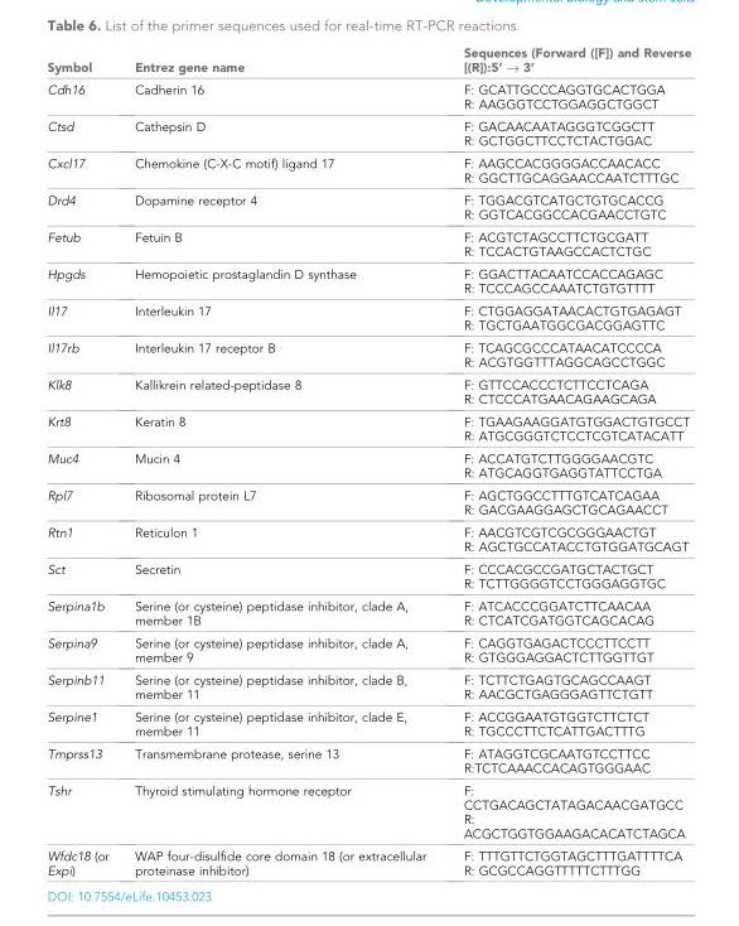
<table><thead><tr><td>Symbol</td><td>Entrez gene name</td><td>Sequences (Forward ([F]) and Reverse [(R]):5’ fi 3’</td></tr></thead><tbody><tr><td>Cdh16</td><td>Cadherin 16</td><td>F: GCATTGCCCAGGTGCACTGGA R: AAGGGTCCTGGAGGCTGGCT</td></tr><tr><td>Ctsd</td><td>Cathepsin D</td><td>F: GACAACAATAGGGTCGGCTT R: GCTGGCTTCCTCTACTGGAC</td></tr><tr><td>Cxcl17</td><td>Chemokine (C-X-C motif) ligand 17</td><td>F: AAGCCACGGGGACCAACACC R: GGCTTGCAGGAACCAATCTTTGC</td></tr><tr><td>Drd4</td><td>Dopamine receptor 4</td><td>F: TGGACGTCATGCTGTGCACCG R: GGTCACGGCCACGAACCTGTC</td></tr><tr><td>Fetub</td><td>Fetuin B</td><td>F: ACGTCTAGCCTTCTGCGATT R: TCCACTGTAAGCCACTCTGC</td></tr><tr><td>Hpgds</td><td>Hemopoietic prostaglandin D synthase</td><td>F: GGACTTACAATCCACCAGAGC R: TCCCAGCCAAATCTGTGTTTT</td></tr><tr><td>Il17</td><td>Interleukin 17</td><td>F: CTGGAGGATAACACTGTGAGAGT R: TGCTGAATGGCGACGGAGTTC</td></tr><tr><td>Il17rb</td><td>Interleukin 17 receptor B</td><td>F: TCAGCGCCCATAACATCCCCA R: ACGTGGTTTAGGCAGCCTGGC</td></tr><tr><td>Klk8</td><td>Kallikrein related-peptidase 8</td><td>F: GTTCCACCCTCTTCCTCAGA R: CTCCCATGAACAGAAGCAGA</td></tr><tr><td>Krt8</td><td>Keratin 8</td><td>F: TGAAGAAGGATGTGGACTGTGCCT R: ATGCGGGTCTCCTCGTCATACATT</td></tr><tr><td>Muc4</td><td>Mucin 4</td><td>F: ACCATGTCTTGGGGAACGTC R: ATGCAGGTGAGGTATTCCTGA</td></tr><tr><td>Rpl7</td><td>Ribosomal protein L7</td><td>F: AGCTGGCCTTTGTCATCAGAA R: GACGAAGGAGCTGCAGAACCT</td></tr><tr><td>Rtn1</td><td>Reticulon 1</td><td>F: AACGTCGTCGCGGGAACTGT R: AGCTGCCATACCTGTGGATGCAGT</td></tr><tr><td>Sct</td><td>Secretin</td><td>F: CCCACGCCGATGCTACTGCT R: TCTTGGGGTCCTGGGAGGTGC</td></tr><tr><td>Serpina1b</td><td>Serine (or cysteine) peptidase inhibitor, clade A, member 1B</td><td>F: ATCACCCGGATCTTCAACAA R: CTCATCGATGGTCAGCACAG</td></tr><tr><td>Serpina9</td><td>Serine (or cysteine) peptidase inhibitor, clade A, member 9</td><td>F: CAGGTGAGACTCCCTTCCTT R: GTGGGAGGACTCTTGGTTGT</td></tr><tr><td>Serpinb11</td><td>Serine (or cysteine) peptidase inhibitor, clade B, member 11</td><td>F: TCTTCTGAGTGCAGCCAAGT R: AACGCTGAGGGAGTTCTGTT</td></tr><tr><td>Serpine1</td><td>Serine (or cysteine) peptidase inhibitor, clade E, member 11</td><td>F: ACCGGAATGTGGTCTTCTCT R: TGCCCTTCTCATTGACTTTG</td></tr><tr><td>Tmprss13</td><td>Transmembrane protease, serine 13</td><td>F: ATAGGTCGCAATGTCCTTCC R:TCTCAAACCACAGTGGGAAC</td></tr><tr><td>Tshr</td><td>Thyroid stimulating hormone receptor</td><td>F: CCTGACAGCTATAGACAACGATGCC R: ACGCTGGTGGAAGACACATCTAGCA</td></tr><tr><td>Wfdc18 (or Expi)</td><td>WAP four-disulfide core domain 18 (or extracellular proteinase inhibitor)</td><td>F: TTTGTTCTGGTAGCTTTGATTTTCA R: GCGCCAGGTTTTTCTTTGG</td></tr></tbody></table>